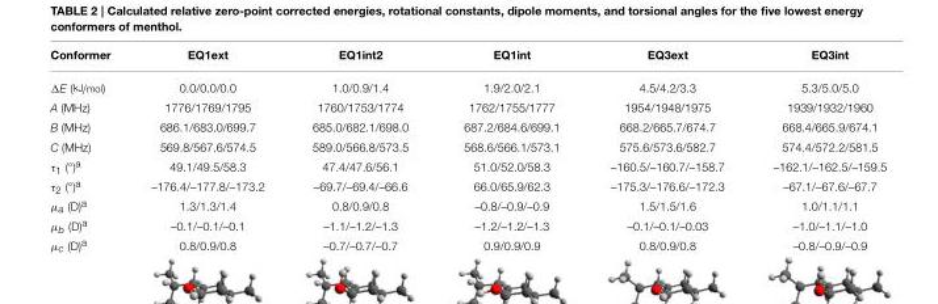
<table><thead><tr><td>Conformer</td><td>EQ1ext</td><td>EQ1int2</td><td>EQ1int</td><td>EQ3ext</td><td>EQ3int</td></tr></thead><tbody><tr><td>ΔE (kJ/mol)</td><td>0.0/0.0/0.0</td><td>1.0/0.9/1.4</td><td>1.9/2.0/2.1</td><td>4.5/4.2/3.3</td><td>5.3/5.0/5.0</td></tr><tr><td>A (MHz)</td><td>1776/1769/1795</td><td>1760/1753/1774</td><td>1762/1755/1777</td><td>1954/1948/1975</td><td>1939/1932/1960</td></tr><tr><td>B (MHz)</td><td>686.1/683.0/699.7</td><td>685.0/682.1/698.0</td><td>687.2/684.6/699.1</td><td>668.2/665.7/674.7</td><td>668.4/665.9/674.1</td></tr><tr><td>C (MHz)</td><td>569.8/567.6/574.5</td><td>589.0/566.8/573.5</td><td>568.6/566.1/573.1</td><td>575.6/573.6/582.7</td><td>574.4/572.2/581.5</td></tr><tr><td>τ<sub>1</sub> (°)<sup>a</sup></td><td>49.1/49.5/58.3</td><td>47.4/47.6/56.1</td><td>51.0/52.0/58.3</td><td>–160.5/–160.7/–158.7</td><td>–162.1/–162.5/–159.5</td></tr><tr><td>τ<sub>2</sub> (°)<sup>a</sup></td><td>–176.4/–177.8/–173.2</td><td>–69.7/–69.4/–66.6</td><td>66.0/65.9/62.3</td><td>–175.3/–176.6/–172.3</td><td>–67.1/–67.6/–67.7</td></tr><tr><td>µ<sub>a</sub> (D)<sup>a</sup></td><td>1.3/1.3/1.4</td><td>0.8/0.9/0.8</td><td>–0.8/–0.9/–0.9</td><td>1.5/1.5/1.6</td><td>1.0/1.1/1.1</td></tr><tr><td>µ<sub>b</sub> (D)<sup>a</sup></td><td>–0.1/–0.1/–0.1</td><td>–1.1/–1.2/–1.3</td><td>–1.2/–1.2/–1.3</td><td>–0.1/–0.1/–0.03</td><td>–1.0/–1.1/–1.0</td></tr><tr><td>µ<sub>c</sub> (D)<sup>a</sup></td><td>0.8/0.9/0.8</td><td>–0.7/–0.7/–0.7</td><td>0.9/0.9/0.9</td><td>0.8/0.9/0.8</td><td>–0.8/–0.9/–0.9</td></tr></tbody></table>